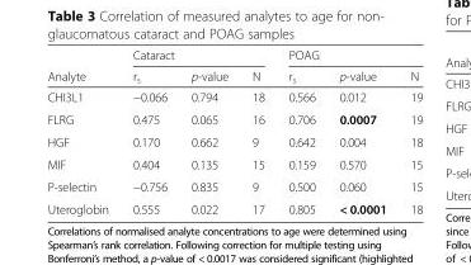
<table><thead><tr><td rowspan="2">Analyte</td><td colspan="3">Cataract</td><td colspan="3">POAG</td></tr><tr><td>r<sub>s</sub></td><td>p-value</td><td>N</td><td>r<sub>s</sub></td><td>p-value</td><td>N</td></tr></thead><tbody><tr><td>CHI3L1</td><td>−0.066</td><td>0.794</td><td>18</td><td>0.566</td><td>0.012</td><td>19</td></tr><tr><td>FLRG</td><td>0.475</td><td>0.065</td><td>16</td><td>0.706</td><td>0.0007</td><td>19</td></tr><tr><td>HGF</td><td>0.170</td><td>0.662</td><td>9</td><td>0.642</td><td>0.004</td><td>18</td></tr><tr><td>MIF</td><td>0.404</td><td>0.135</td><td>15</td><td>0.159</td><td>0.570</td><td>15</td></tr><tr><td>P-selectin</td><td>−0.756</td><td>0.835</td><td>9</td><td>0.500</td><td>0.060</td><td>15</td></tr><tr><td>Uteroglobin</td><td>0.555</td><td>0.022</td><td>17</td><td>0.805</td><td>&lt; 0.0001</td><td>18</td></tr></tbody></table>